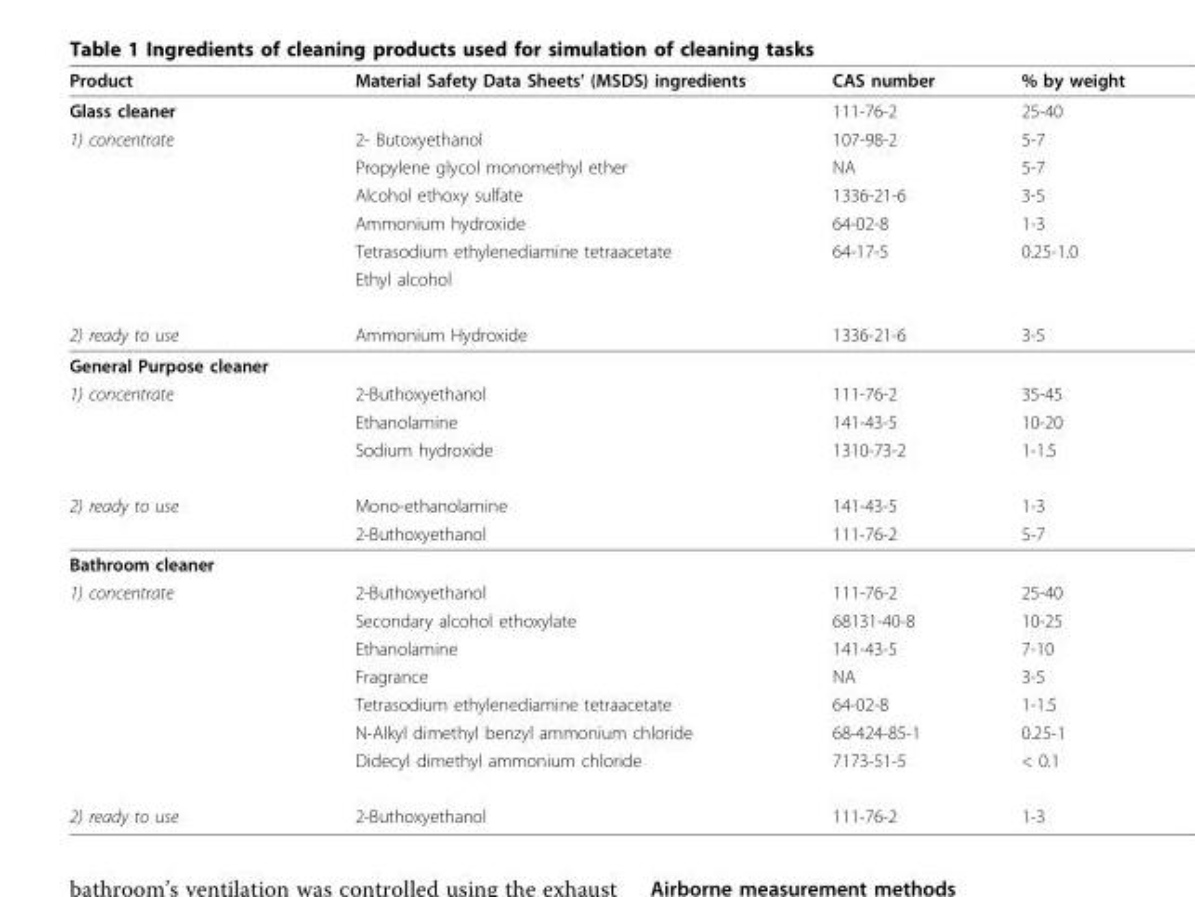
<table><thead><tr><td>Product</td><td>Material Safety Data Sheets’ (MSDS) ingredients</td><td>CAS number</td><td>% by weight</td></tr></thead><tbody><tr><td>Glass cleaner</td><td></td><td>111-76-2</td><td>25-40</td></tr><tr><td rowspan="6">1) concentrate</td><td>2- Butoxyethanol</td><td>107-98-2</td><td>5-7</td></tr><tr><td>Propylene glycol monomethyl ether</td><td>NA</td><td>5-7</td></tr><tr><td>Alcohol ethoxy sulfate</td><td>1336-21-6</td><td>3-5</td></tr><tr><td>Ammonium hydroxide</td><td>64-02-8</td><td>1-3</td></tr><tr><td>Tetrasodium ethylenediamine tetraacetate</td><td>64-17-5</td><td>0.25-1.0</td></tr><tr><td>Ethyl alcohol</td><td></td><td></td></tr><tr><td>2) ready to use</td><td>Ammonium Hydroxide</td><td>1336-21-6</td><td>3-5</td></tr><tr><td colspan="4">General Purpose cleaner</td></tr><tr><td rowspan="3">1) concentrate</td><td>2-Buthoxyethanol</td><td>111-76-2</td><td>35-45</td></tr><tr><td>Ethanolamine</td><td>141-43-5</td><td>10-20</td></tr><tr><td>Sodium hydroxide</td><td>1310-73-2</td><td>1-1.5</td></tr><tr><td rowspan="2">2) ready to use</td><td>Mono-ethanolamine</td><td>141-43-5</td><td>1-3</td></tr><tr><td>2-Buthoxyethanol</td><td>111-76-2</td><td>5-7</td></tr><tr><td colspan="4">Bathroom cleaner</td></tr><tr><td rowspan="7">1) concentrate</td><td>2-Buthoxyethanol</td><td>111-76-2</td><td>25-40</td></tr><tr><td>Secondary alcohol ethoxylate</td><td>68131-40-8</td><td>10-25</td></tr><tr><td>Ethanolamine</td><td>141-43-5</td><td>7-10</td></tr><tr><td>Fragrance</td><td>NA</td><td>3-5</td></tr><tr><td>Tetrasodium ethylenediamine tetraacetate</td><td>64-02-8</td><td>1-1.5</td></tr><tr><td>N-Alkyl dimethyl benzyl ammonium chloride</td><td>68-424-85-1</td><td>0.25-1</td></tr><tr><td>Didecyl dimethyl ammonium chloride</td><td>7173-51-5</td><td>&lt; 0.1</td></tr><tr><td>2) ready to use</td><td>2-Buthoxyethanol</td><td>111-76-2</td><td>1-3</td></tr></tbody></table>